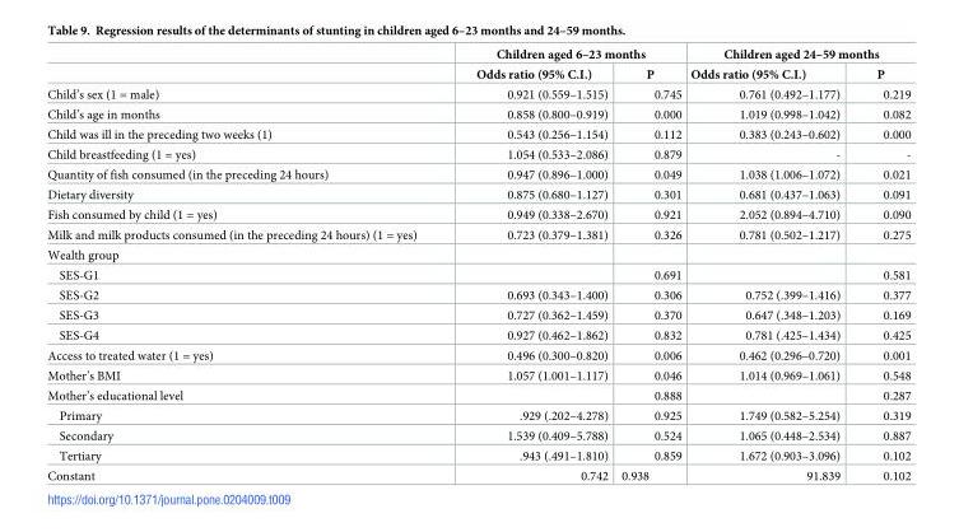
<table><thead><tr><td rowspan="2"></td><td colspan="2">Children aged 6–23 months</td><td colspan="2">Children aged 24–59 months</td></tr><tr><td>Odds ratio (95% C.I.)</td><td>P</td><td>Odds ratio (95% C.I.)</td><td>P</td></tr></thead><tbody><tr><td>Child’s sex (1 = male)</td><td>0.921 (0.559–1.515)</td><td>0.745</td><td>0.761 (0.492–1.177)</td><td>0.219</td></tr><tr><td>Child’s age in months</td><td>0.858 (0.800–0.919)</td><td>0.000</td><td>1.019 (0.998–1.042)</td><td>0.082</td></tr><tr><td>Child was ill in the preceding two weeks (1)</td><td>0.543 (0.256–1.154)</td><td>0.112</td><td>0.383 (0.243–0.602)</td><td>0.000</td></tr><tr><td>Child breastfeeding (1 = yes)</td><td>1.054 (0.533–2.086)</td><td>0.879</td><td>-</td><td>-</td></tr><tr><td>Quantity of fish consumed (in the preceding 24 hours)</td><td>0.947 (0.896–1.000)</td><td>0.049</td><td>1.038 (1.006–1.072)</td><td>0.021</td></tr><tr><td>Dietary diversity</td><td>0.875 (0.680–1.127)</td><td>0.301</td><td>0.681 (0.437–1.063)</td><td>0.091</td></tr><tr><td>Fish consumed by child (1 = yes)</td><td>0.949 (0.338–2.670)</td><td>0.921</td><td>2.052 (0.894–4.710)</td><td>0.090</td></tr><tr><td>Milk and milk products consumed (in the preceding 24 hours) (1 = yes)</td><td>0.723 (0.379–1.381)</td><td>0.326</td><td>0.781 (0.502–1.217)</td><td>0.275</td></tr><tr><td colspan="5">Wealth group</td></tr><tr><td>SES-G1</td><td></td><td>0.691</td><td></td><td>0.581</td></tr><tr><td>SES-G2</td><td>0.693 (0.343–1.400)</td><td>0.306</td><td>0.752 (.399–1.416)</td><td>0.377</td></tr><tr><td>SES-G3</td><td>0.727 (0.362–1.459)</td><td>0.370</td><td>0.647 (.348–1.203)</td><td>0.169</td></tr><tr><td>SES-G4</td><td>0.927 (0.462–1.862)</td><td>0.832</td><td>0.781 (.425–1.434)</td><td>0.425</td></tr><tr><td>Access to treated water (1 = yes)</td><td>0.496 (0.300–0.820)</td><td>0.006</td><td>0.462 (0.296–0.720)</td><td>0.001</td></tr><tr><td>Mother’s BMI</td><td>1.057 (1.001–1.117)</td><td>0.046</td><td>1.014 (0.969–1.061)</td><td>0.548</td></tr><tr><td>Mother’s educational level</td><td></td><td>0.888</td><td></td><td>0.287</td></tr><tr><td>Primary</td><td>.929 (.202–4.278)</td><td>0.925</td><td>1.749 (0.582–5.254)</td><td>0.319</td></tr><tr><td>Secondary</td><td>1.539 (0.409–5.788)</td><td>0.524</td><td>1.065 (0.448–2.534)</td><td>0.887</td></tr><tr><td>Tertiary</td><td>.943 (.491–1.810)</td><td>0.859</td><td>1.672 (0.903–3.096)</td><td>0.102</td></tr><tr><td>Constant</td><td>0.742</td><td>0.938</td><td>91.839</td><td>0.102</td></tr></tbody></table>